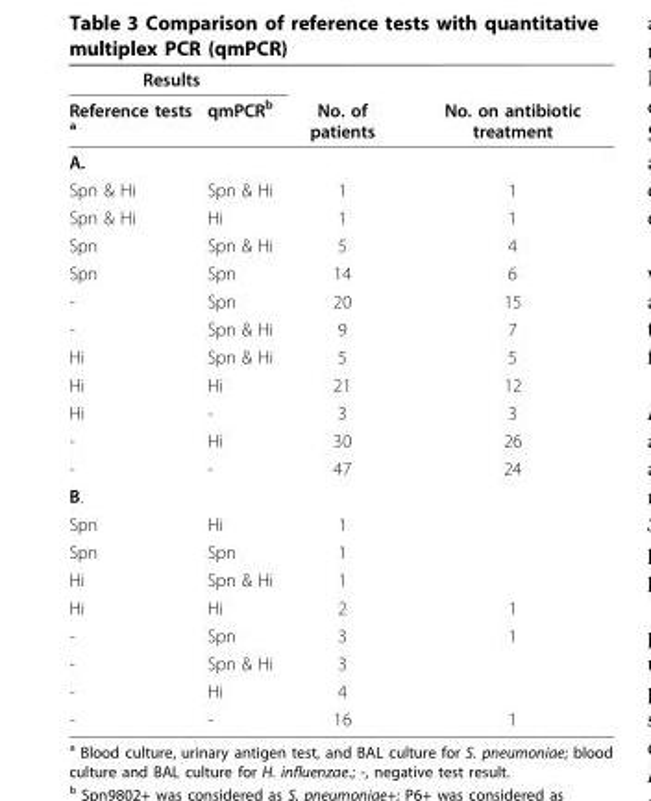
<table><thead><tr><td colspan="2">Results</td><td rowspan="2">No. of patients</td><td rowspan="2">No. on antibiotic treatment</td></tr><tr><td>Reference tests <sup>a</sup></td><td>qmPCR<sup>b</sup></td></tr></thead><tbody><tr><td colspan="4">A.</td></tr><tr><td>Spn &amp; Hi</td><td>Spn &amp; Hi</td><td>1</td><td>1</td></tr><tr><td>Spn &amp; Hi</td><td>Hi</td><td>1</td><td>1</td></tr><tr><td>Spn</td><td>Spn &amp; Hi</td><td>5</td><td>4</td></tr><tr><td>Spn</td><td>Spn</td><td>14</td><td>6</td></tr><tr><td>-</td><td>Spn</td><td>20</td><td>15</td></tr><tr><td>-</td><td>Spn &amp; Hi</td><td>9</td><td>7</td></tr><tr><td>Hi</td><td>Spn &amp; Hi</td><td>5</td><td>5</td></tr><tr><td>Hi</td><td>Hi</td><td>21</td><td>12</td></tr><tr><td>Hi</td><td>-</td><td>3</td><td>3</td></tr><tr><td>-</td><td>Hi</td><td>30</td><td>26</td></tr><tr><td>-</td><td>-</td><td>47</td><td>24</td></tr><tr><td colspan="4">B.</td></tr><tr><td>Spn</td><td>Hi</td><td>1</td><td></td></tr><tr><td>Spn</td><td>Spn</td><td>1</td><td></td></tr><tr><td>Hi</td><td>Spn &amp; Hi</td><td>1</td><td></td></tr><tr><td>Hi</td><td>Hi</td><td>2</td><td>1</td></tr><tr><td>-</td><td>Spn</td><td>3</td><td>1</td></tr><tr><td>-</td><td>Spn &amp; Hi</td><td>3</td><td></td></tr><tr><td>-</td><td>Hi</td><td>4</td><td></td></tr><tr><td>-</td><td>-</td><td>16</td><td>1</td></tr></tbody></table>